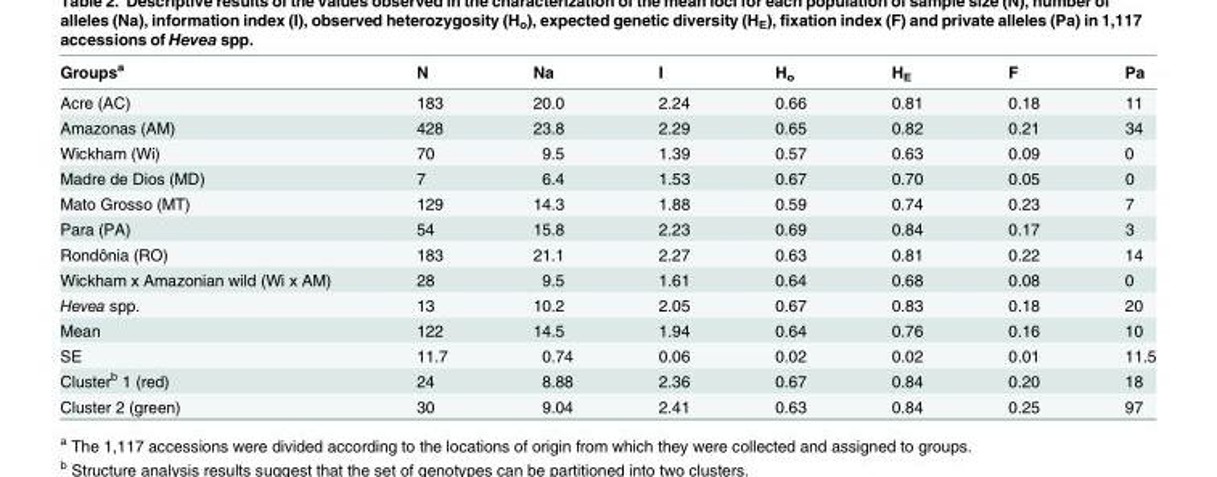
<table><thead><tr><td>Groups<sup>a</sup></td><td>N</td><td>Na</td><td>I</td><td>H<sub>o</sub></td><td>H<sub>E</sub></td><td>F</td><td>Pa</td></tr></thead><tbody><tr><td>Acre (AC)</td><td>183</td><td>20.0</td><td>2.24</td><td>0.66</td><td>0.81</td><td>0.18</td><td>11</td></tr><tr><td>Amazonas (AM)</td><td>428</td><td>23.8</td><td>2.29</td><td>0.65</td><td>0.82</td><td>0.21</td><td>34</td></tr><tr><td>Wickham (Wi)</td><td>70</td><td>9.5</td><td>1.39</td><td>0.57</td><td>0.63</td><td>0.09</td><td>0</td></tr><tr><td>Madre de Dios (MD)</td><td>7</td><td>6.4</td><td>1.53</td><td>0.67</td><td>0.70</td><td>0.05</td><td>0</td></tr><tr><td>Mato Grosso (MT)</td><td>129</td><td>14.3</td><td>1.88</td><td>0.59</td><td>0.74</td><td>0.23</td><td>7</td></tr><tr><td>Para (PA)</td><td>54</td><td>15.8</td><td>2.23</td><td>0.69</td><td>0.84</td><td>0.17</td><td>3</td></tr><tr><td>Rondônia (RO)</td><td>183</td><td>21.1</td><td>2.27</td><td>0.63</td><td>0.81</td><td>0.22</td><td>14</td></tr><tr><td>Wickham x Amazonian wild (Wi x AM)</td><td>28</td><td>9.5</td><td>1.61</td><td>0.64</td><td>0.68</td><td>0.08</td><td>0</td></tr><tr><td>Hevea spp.</td><td>13</td><td>10.2</td><td>2.05</td><td>0.67</td><td>0.83</td><td>0.18</td><td>20</td></tr><tr><td>Mean</td><td>122</td><td>14.5</td><td>1.94</td><td>0.64</td><td>0.76</td><td>0.16</td><td>10</td></tr><tr><td>SE</td><td>11.7</td><td>0.74</td><td>0.06</td><td>0.02</td><td>0.02</td><td>0.01</td><td>11.5</td></tr><tr><td>Cluster<sup>b</sup> 1 (red)</td><td>24</td><td>8.88</td><td>2.36</td><td>0.67</td><td>0.84</td><td>0.20</td><td>18</td></tr><tr><td>Cluster 2 (green)</td><td>30</td><td>9.04</td><td>2.41</td><td>0.63</td><td>0.84</td><td>0.25</td><td>97</td></tr></tbody></table>